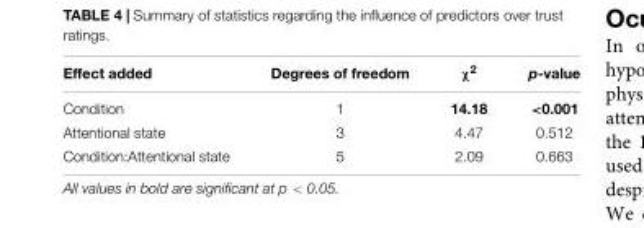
<table><thead><tr><td>Effect added</td><td>Degrees of freedom</td><td>χ<sup>2</sup></td><td>p-value</td></tr></thead><tbody><tr><td>Condition</td><td>1</td><td>14.18</td><td>&lt;0.001</td></tr><tr><td>Attentional state</td><td>3</td><td>4.47</td><td>0.512</td></tr><tr><td>Condition:Attentional state</td><td>5</td><td>2.09</td><td>0.663</td></tr></tbody></table>